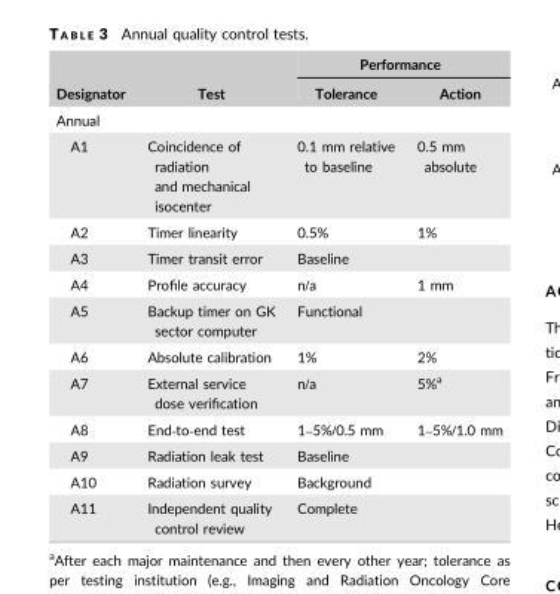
<table><thead><tr><td rowspan="2">Designator</td><td rowspan="2">Test</td><td colspan="2">Performance</td></tr><tr><td>Tolerance</td><td>Action</td></tr></thead><tbody><tr><td colspan="4">Annual</td></tr><tr><td>A1</td><td>Coincidence of radiation and mechanical isocenter</td><td>0.1 mm relative to baseline</td><td>0.5 mm absolute</td></tr><tr><td>A2</td><td>Timer linearity</td><td>0.5%</td><td>1%</td></tr><tr><td>A3</td><td>Timer transit error</td><td colspan="2">Baseline</td></tr><tr><td>A4</td><td>Profile accuracy</td><td>n/a</td><td>1 mm</td></tr><tr><td>A5</td><td>Backup timer on GK sector computer</td><td colspan="2">Functional</td></tr><tr><td>A6</td><td>Absolute calibration</td><td>1%</td><td>2%</td></tr><tr><td>A7</td><td>External service dose verification</td><td>n/a</td><td>5%<sup>a</sup></td></tr><tr><td>A8</td><td>End‐to‐end test</td><td>1–5%/0.5 mm</td><td>1–5%/1.0 mm</td></tr><tr><td>A9</td><td>Radiation leak test</td><td colspan="2">Baseline</td></tr><tr><td>A10</td><td>Radiation survey</td><td colspan="2">Background</td></tr><tr><td>A11</td><td>Independent quality control review</td><td colspan="2">Complete</td></tr></tbody></table>